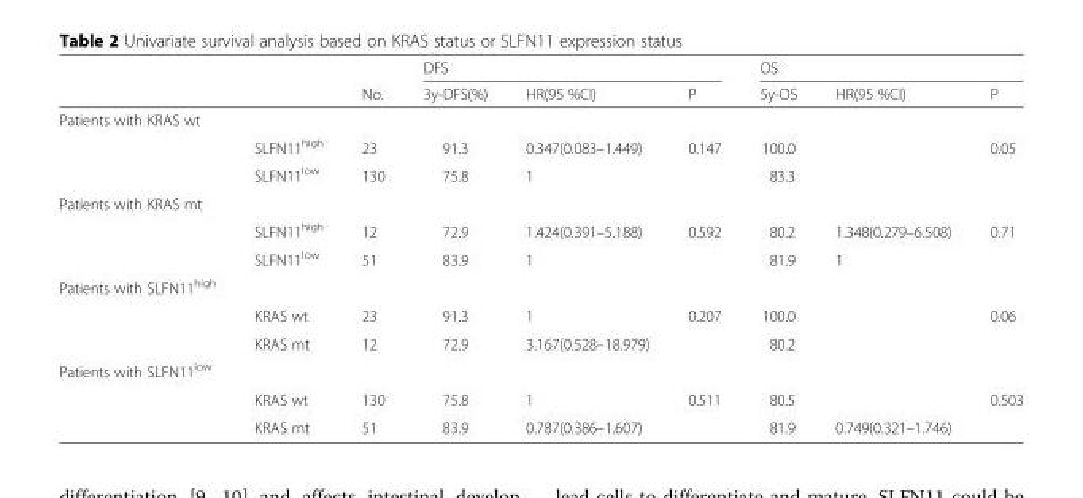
<table><thead><tr><td rowspan="2"></td><td rowspan="2"></td><td rowspan="2">No.</td><td colspan="3">DFS</td><td colspan="3">OS</td></tr><tr><td>3y-DFS(%)</td><td>HR(95 %CI)</td><td>P</td><td>5y-OS</td><td>HR(95 %CI)</td><td>P</td></tr></thead><tbody><tr><td colspan="9">Patients with KRAS wt</td></tr><tr><td></td><td>SLFN11<sup>high</sup></td><td>23</td><td>91.3</td><td>0.347(0.083–1.449)</td><td>0.147</td><td>100.0</td><td></td><td>0.05</td></tr><tr><td></td><td>SLFN11<sup>low</sup></td><td>130</td><td>75.8</td><td>1</td><td></td><td>83.3</td><td></td><td></td></tr><tr><td colspan="9">Patients with KRAS mt</td></tr><tr><td></td><td>SLFN11<sup>high</sup></td><td>12</td><td>72.9</td><td>1.424(0.391–5.188)</td><td>0.592</td><td>80.2</td><td>1.348(0.279–6.508)</td><td>0.71</td></tr><tr><td></td><td>SLFN11<sup>low</sup></td><td>51</td><td>83.9</td><td>1</td><td></td><td>81.9</td><td>1</td><td></td></tr><tr><td colspan="9">Patients with SLFN11<sup>high</sup></td></tr><tr><td></td><td>KRAS wt</td><td>23</td><td>91.3</td><td>1</td><td>0.207</td><td>100.0</td><td></td><td>0.06</td></tr><tr><td></td><td>KRAS mt</td><td>12</td><td>72.9</td><td>3.167(0.528–18.979)</td><td></td><td>80.2</td><td></td><td></td></tr><tr><td colspan="9">Patients with SLFN11<sup>low</sup></td></tr><tr><td></td><td>KRAS wt</td><td>130</td><td>75.8</td><td>1</td><td>0.511</td><td>80.5</td><td></td><td>0.503</td></tr><tr><td></td><td>KRAS mt</td><td>51</td><td>83.9</td><td>0.787(0.386–1.607)</td><td></td><td>81.9</td><td>0.749(0.321–1.746)</td><td></td></tr></tbody></table>